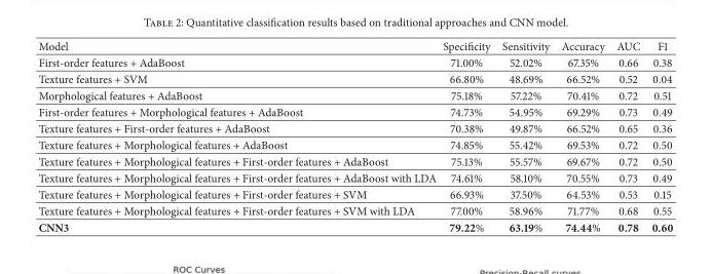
<table><thead><tr><td>Model</td><td>Specificity</td><td>Sensitivity</td><td>Accuracy</td><td>AUC</td><td>F1</td></tr></thead><tbody><tr><td>First-order features + AdaBoost</td><td>71.00%</td><td>52.02%</td><td>67.35%</td><td>0.66</td><td>0.38</td></tr><tr><td>Texture features + SVM</td><td>66.80%</td><td>48.69%</td><td>66.52%</td><td>0.52</td><td>0.04</td></tr><tr><td>Morphological features + AdaBoost</td><td>75.18%</td><td>57.22%</td><td>70.41%</td><td>0.72</td><td>0.51</td></tr><tr><td>First-order features + Morphological features + AdaBoost</td><td>74.73%</td><td>54.95%</td><td>69.29%</td><td>0.73</td><td>0.49</td></tr><tr><td>Texture features + First-order features + AdaBoost</td><td>70.38%</td><td>49.87%</td><td>66.52%</td><td>0.65</td><td>0.36</td></tr><tr><td>Texture features + Morphological features + AdaBoost</td><td>74.85%</td><td>55.42%</td><td>69.53%</td><td>0.72</td><td>0.50</td></tr><tr><td>Texture features + Morphological features + First-order features + AdaBoost</td><td>75.13%</td><td>55.57%</td><td>69.67%</td><td>0.72</td><td>0.50</td></tr><tr><td>Texture features + Morphological features + First-order features + AdaBoost with LDA</td><td>74.61%</td><td>58.10%</td><td>70.55%</td><td>0.73</td><td>0.49</td></tr><tr><td>Texture features + Morphological features + First-order features + SVM</td><td>66.93%</td><td>37.50%</td><td>64.53%</td><td>0.53</td><td>0.15</td></tr><tr><td>Texture features + Morphological features + First-order features + SVM with LDA</td><td>77.00%</td><td>58.96%</td><td>71.77%</td><td>0.68</td><td>0.55</td></tr><tr><td>CNN3</td><td>79.22%</td><td>63.19%</td><td>74.44%</td><td>0.78</td><td>0.60</td></tr></tbody></table>